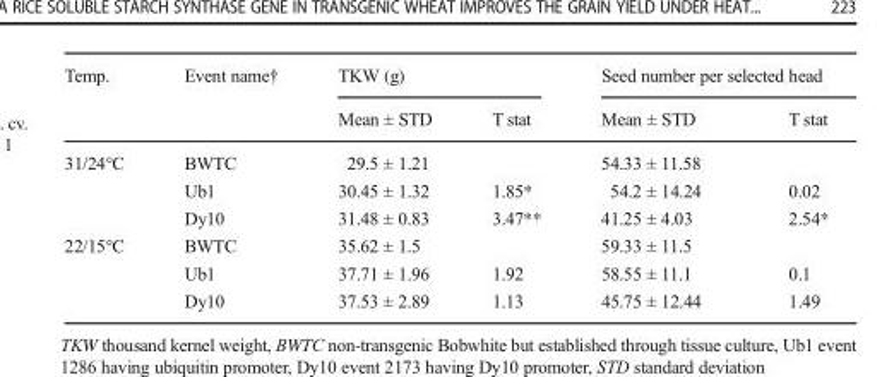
<table><thead><tr><td rowspan="2">Temp.</td><td rowspan="2">Event name†</td><td colspan="2">TKW (g)</td><td colspan="2">Seed number per selected head</td></tr><tr><td>Mean ± STD</td><td>T stat</td><td>Mean ± STD</td><td>T stat</td></tr></thead><tbody><tr><td rowspan="3">31/24°C</td><td>BWTC</td><td>29.5 ± 1.21</td><td></td><td>54.33 ± 11.58</td><td></td></tr><tr><td>Ub1</td><td>30.45 ± 1.32</td><td>1.85*</td><td>54.2 ± 14.24</td><td>0.02</td></tr><tr><td>Dy10</td><td>31.48 ± 0.83</td><td>3.47**</td><td>41.25 ± 4.03</td><td>2.54*</td></tr><tr><td rowspan="3">22/15°C</td><td>BWTC</td><td>35.62 ± 1.5</td><td></td><td>59.33 ± 11.5</td><td></td></tr><tr><td>Ub1</td><td>37.71 ± 1.96</td><td>1.92</td><td>58.55 ± 11.1</td><td>0.1</td></tr><tr><td>Dy10</td><td>37.53 ± 2.89</td><td>1.13</td><td>45.75 ± 12.44</td><td>1.49</td></tr></tbody></table>